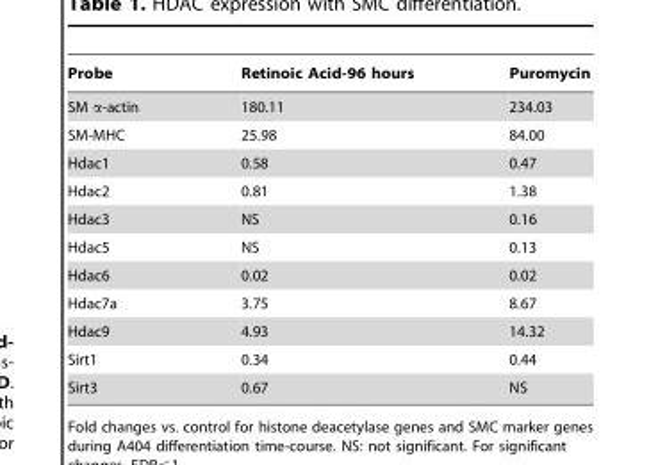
<table><thead><tr><td>Probe</td><td>Retinoic Acid-96 hours</td><td>Puromycin</td></tr></thead><tbody><tr><td>SM α-actin</td><td>180.11</td><td>234.03</td></tr><tr><td>SM-MHC</td><td>25.98</td><td>84.00</td></tr><tr><td>Hdac1</td><td>0.58</td><td>0.47</td></tr><tr><td>Hdac2</td><td>0.81</td><td>1.38</td></tr><tr><td>Hdac3</td><td>NS</td><td>0.16</td></tr><tr><td>Hdac5</td><td>NS</td><td>0.13</td></tr><tr><td>Hdac6</td><td>0.02</td><td>0.02</td></tr><tr><td>Hdac7a</td><td>3.75</td><td>8.67</td></tr><tr><td>Hdac9</td><td>4.93</td><td>14.32</td></tr><tr><td>Sirt1</td><td>0.34</td><td>0.44</td></tr><tr><td>Sirt3</td><td>0.67</td><td>NS</td></tr></tbody></table>